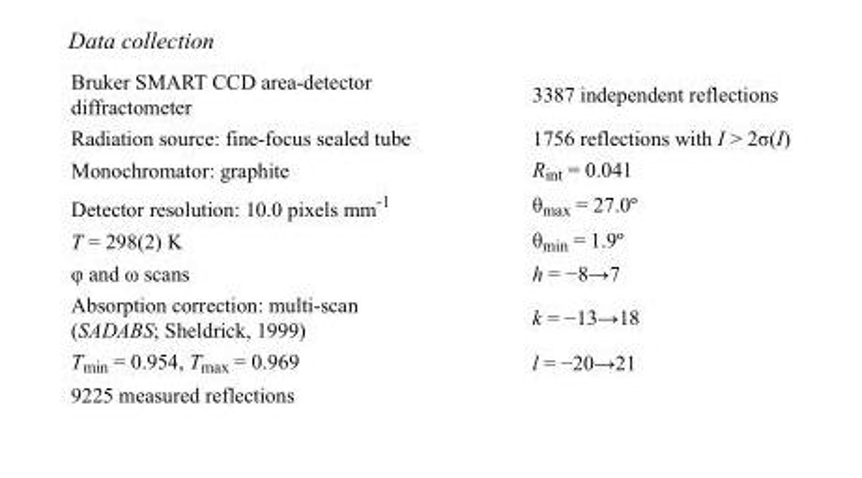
<table><tbody><tr><td>Bruker SMART CCD area-detector diffractometer</td><td>3387 independent reflections</td></tr><tr><td>Radiation source: fine-focus sealed tube</td><td>1756 reflections with I &gt; 2σ(I)</td></tr><tr><td>Monochromator: graphite</td><td>R<sub>int</sub> = 0.041</td></tr><tr><td>Detector resolution: 10.0 pixels mm<sup>-1</sup></td><td>θ<sub>max</sub> = 27.0º</td></tr><tr><td>T = 298(2) K</td><td>θ<sub>min</sub> = 1.9º</td></tr><tr><td>φ and ω scans</td><td>h = −8→7</td></tr><tr><td>Absorption correction: multi-scan (SADABS; Sheldrick, 1999)</td><td>k = −13→18</td></tr><tr><td>T<sub>min</sub> = 0.954, T<sub>max</sub> = 0.969</td><td>l = −20→21</td></tr><tr><td>9225 measured reflections</td><td></td></tr></tbody></table>